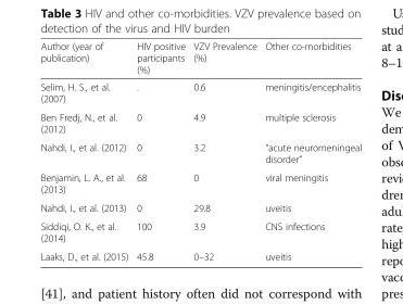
<table><thead><tr><td>Author (year of publication)</td><td>HIV positive participants (%)</td><td>VZV Prevalence (%)</td><td>Other co-morbidities</td></tr></thead><tbody><tr><td>Selim, H. S., et al. (2007)</td><td>.</td><td>0.6</td><td>meningitis/encephalitis</td></tr><tr><td>Ben Fredj, N., et al. (2012)</td><td>0</td><td>4.9</td><td>multiple sclerosis</td></tr><tr><td>Nahdi, I., et al. (2012)</td><td>0</td><td>3.2</td><td>“acute neuromeningeal disorder”</td></tr><tr><td>Benjamin, L. A., et al. (2013)</td><td>68</td><td>0</td><td>viral meningitis</td></tr><tr><td>Nahdi, I., et al. (2013)</td><td>0</td><td>29.8</td><td>uveitis</td></tr><tr><td>Siddiqi, O. K., et al. (2014)</td><td>100</td><td>3.9</td><td>CNS infections</td></tr><tr><td>Laaks, D., et al. (2015)</td><td>45.8</td><td>0–32</td><td>uveitis</td></tr></tbody></table>